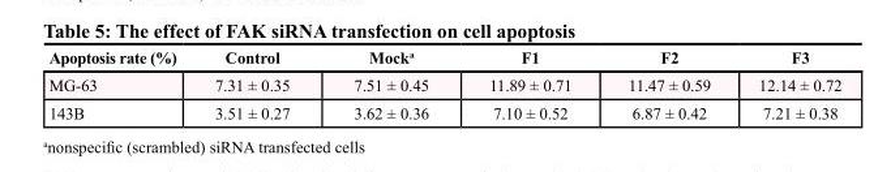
<table><thead><tr><td>Apoptosis rate (%)</td><td>Control</td><td>Mock<sup>a</sup></td><td>F1</td><td>F2</td><td>F3</td></tr></thead><tbody><tr><td>MG-63</td><td>7.31 ± 0.35</td><td>7.51 ± 0.45</td><td>11.89 ± 0.71</td><td>11.47 ± 0.59</td><td>12.14 ± 0.72</td></tr><tr><td>143B</td><td>3.51 ± 0.27</td><td>3.62 ± 0.36</td><td>7.10 ± 0.52</td><td>6.87 ± 0.42</td><td>7.21 ± 0.38</td></tr></tbody></table>